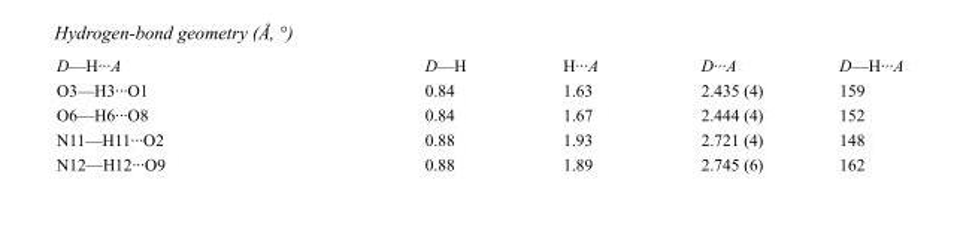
<table><tbody><tr><td>D—H···A</td><td>D—H</td><td>H···A</td><td>D···A</td><td>D—H···A</td></tr><tr><td>O3—H3···O1</td><td>0.84</td><td>1.63</td><td>2.435 (4)</td><td>159</td></tr><tr><td>O6—H6···O8</td><td>0.84</td><td>1.67</td><td>2.444 (4)</td><td>152</td></tr><tr><td>N11—H11···O2</td><td>0.88</td><td>1.93</td><td>2.721 (4)</td><td>148</td></tr><tr><td>N12—H12···O9</td><td>0.88</td><td>1.89</td><td>2.745 (6)</td><td>162</td></tr></tbody></table>